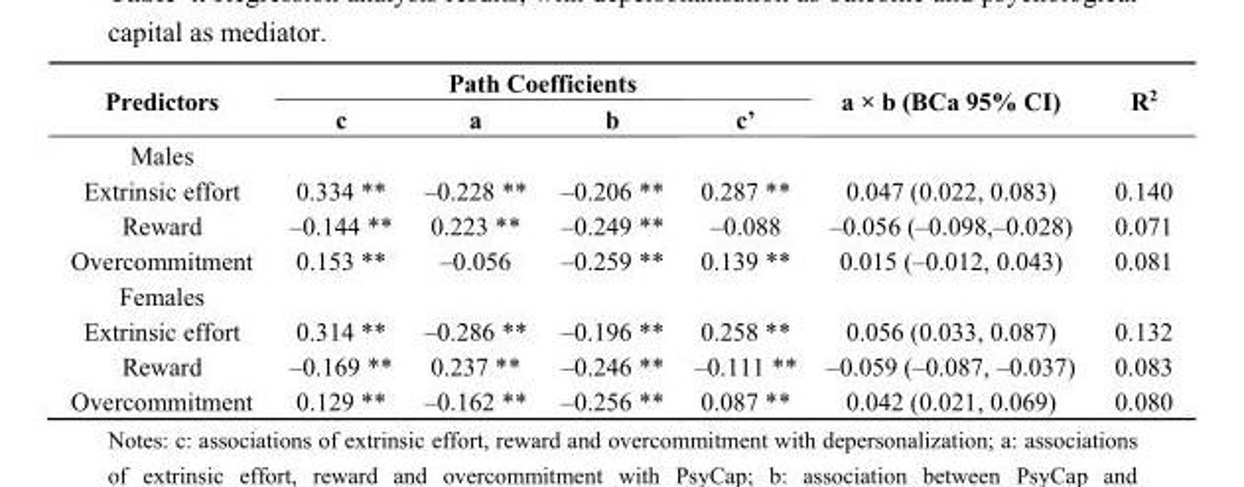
<table><thead><tr><td rowspan="2">Predictors</td><td colspan="4">Path Coefficients</td><td rowspan="2">a × b (BCa 95% CI)</td><td rowspan="2">R<sup>2</sup></td></tr><tr><td>c</td><td>a</td><td>b</td><td>c’</td></tr></thead><tbody><tr><td colspan="7">Males</td></tr><tr><td>Extrinsic effort</td><td>0.334 **</td><td>‒0.228 **</td><td>‒0.206 **</td><td>0.287 **</td><td>0.047 (0.022, 0.083)</td><td>0.140</td></tr><tr><td>Reward</td><td>‒0.144 **</td><td>0.223 **</td><td>‒0.249 **</td><td>‒0.088</td><td>‒0.056 (‒0.098,‒0.028)</td><td>0.071</td></tr><tr><td>Overcommitment</td><td>0.153 **</td><td>‒0.056</td><td>‒0.259 **</td><td>0.139 **</td><td>0.015 (‒0.012, 0.043)</td><td>0.081</td></tr><tr><td colspan="7">Females</td></tr><tr><td>Extrinsic effort</td><td>0.314 **</td><td>‒0.286 **</td><td>‒0.196 **</td><td>0.258 **</td><td>0.056 (0.033, 0.087)</td><td>0.132</td></tr><tr><td>Reward</td><td>‒0.169 **</td><td>0.237 **</td><td>‒0.246 **</td><td>‒0.111 **</td><td>‒0.059 (‒0.087, ‒0.037)</td><td>0.083</td></tr><tr><td>Overcommitment</td><td>0.129 **</td><td>‒0.162 **</td><td>‒0.256 **</td><td>0.087 **</td><td>0.042 (0.021, 0.069)</td><td>0.080</td></tr></tbody></table>